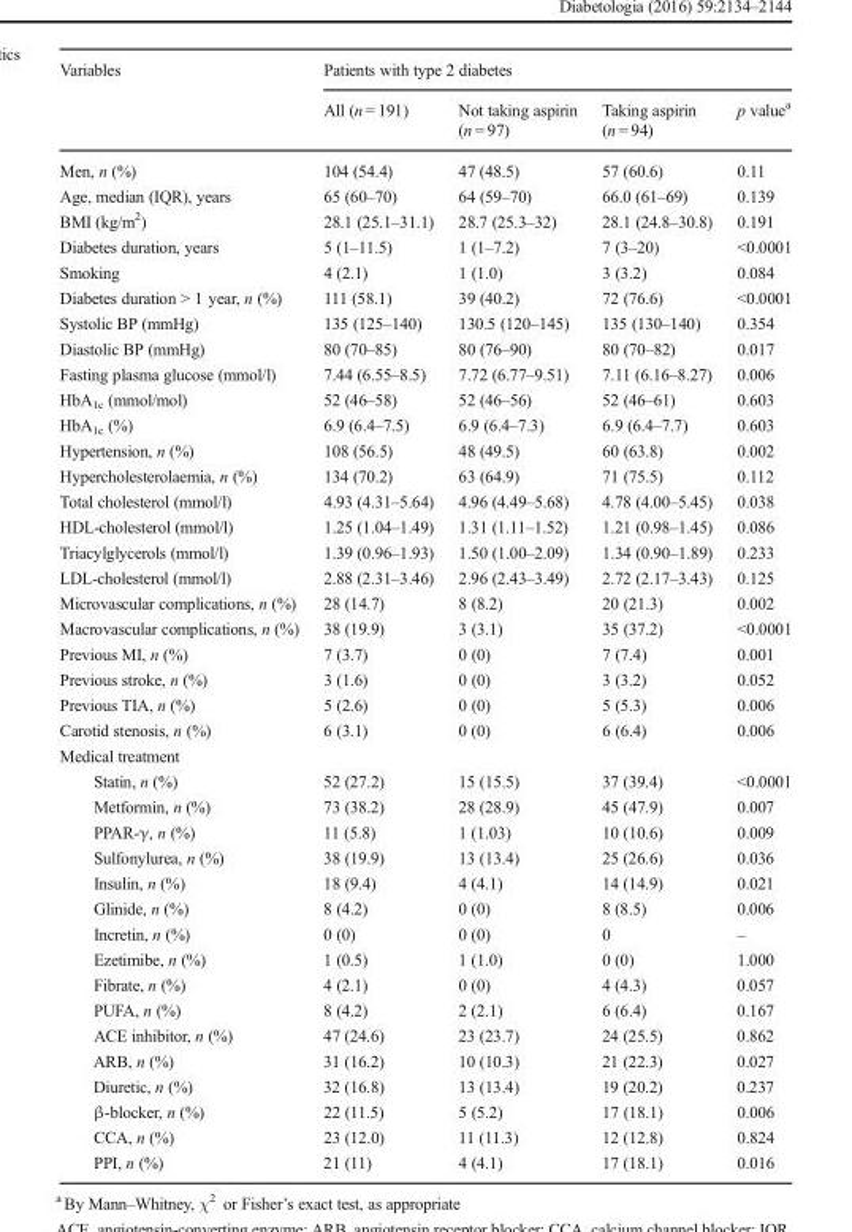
<table><thead><tr><td rowspan="2">Variables</td><td colspan="4">Patients with type 2 diabetes</td></tr><tr><td>All (n = 191)</td><td>Not taking aspirin (n = 97)</td><td>Taking aspirin (n = 94)</td><td>p value<sup>a</sup></td></tr></thead><tbody><tr><td>Men, n (%)</td><td>104 (54.4)</td><td>47 (48.5)</td><td>57 (60.6)</td><td>0.11</td></tr><tr><td>Age, median (IQR), years</td><td>65 (60–70)</td><td>64 (59–70)</td><td>66.0 (61–69)</td><td>0.139</td></tr><tr><td>BMI (kg/m<sup>2</sup>)</td><td>28.1 (25.1–31.1)</td><td>28.7 (25.3–32)</td><td>28.1 (24.8–30.8)</td><td>0.191</td></tr><tr><td>Diabetes duration, years</td><td>5 (1–11.5)</td><td>1 (1–7.2)</td><td>7 (3–20)</td><td>&lt;0.0001</td></tr><tr><td>Smoking</td><td>4 (2.1)</td><td>1 (1.0)</td><td>3 (3.2)</td><td>0.084</td></tr><tr><td>Diabetes duration &gt; 1 year, n (%)</td><td>111 (58.1)</td><td>39 (40.2)</td><td>72 (76.6)</td><td>&lt;0.0001</td></tr><tr><td>Systolic BP (mmHg)</td><td>135 (125–140)</td><td>130.5 (120–145)</td><td>135 (130–140)</td><td>0.354</td></tr><tr><td>Diastolic BP (mmHg)</td><td>80 (70–85)</td><td>80 (76–90)</td><td>80 (70–82)</td><td>0.017</td></tr><tr><td>Fasting plasma glucose (mmol/l)</td><td>7.44 (6.55–8.5)</td><td>7.72 (6.77–9.51)</td><td>7.11 (6.16–8.27)</td><td>0.006</td></tr><tr><td>HbA<sub>1c</sub> (mmol/mol)</td><td>52 (46–58)</td><td>52 (46–56)</td><td>52 (46–61)</td><td>0.603</td></tr><tr><td>HbA<sub>1c</sub> (%)</td><td>6.9 (6.4–7.5)</td><td>6.9 (6.4–7.3)</td><td>6.9 (6.4–7.7)</td><td>0.603</td></tr><tr><td>Hypertension, n (%)</td><td>108 (56.5)</td><td>48 (49.5)</td><td>60 (63.8)</td><td>0.002</td></tr><tr><td>Hypercholesterolaemia, n (%)</td><td>134 (70.2)</td><td>63 (64.9)</td><td>71 (75.5)</td><td>0.112</td></tr><tr><td>Total cholesterol (mmol/l)</td><td>4.93 (4.31–5.64)</td><td>4.96 (4.49–5.68)</td><td>4.78 (4.00–5.45)</td><td>0.038</td></tr><tr><td>HDL-cholesterol (mmol/l)</td><td>1.25 (1.04–1.49)</td><td>1.31 (1.11–1.52)</td><td>1.21 (0.98–1.45)</td><td>0.086</td></tr><tr><td>Triacylglycerols (mmol/l)</td><td>1.39 (0.96–1.93)</td><td>1.50 (1.00–2.09)</td><td>1.34 (0.90–1.89)</td><td>0.233</td></tr><tr><td>LDL-cholesterol (mmol/l)</td><td>2.88 (2.31–3.46)</td><td>2.96 (2.43–3.49)</td><td>2.72 (2.17–3.43)</td><td>0.125</td></tr><tr><td>Microvascular complications, n (%)</td><td>28 (14.7)</td><td>8 (8.2)</td><td>20 (21.3)</td><td>0.002</td></tr><tr><td>Macrovascular complications, n (%)</td><td>38 (19.9)</td><td>3 (3.1)</td><td>35 (37.2)</td><td>&lt;0.0001</td></tr><tr><td>Previous MI, n (%)</td><td>7 (3.7)</td><td>0 (0)</td><td>7 (7.4)</td><td>0.001</td></tr><tr><td>Previous stroke, n (%)</td><td>3 (1.6)</td><td>0 (0)</td><td>3 (3.2)</td><td>0.052</td></tr><tr><td>Previous TIA, n (%)</td><td>5 (2.6)</td><td>0 (0)</td><td>5 (5.3)</td><td>0.006</td></tr><tr><td>Carotid stenosis, n (%)</td><td>6 (3.1)</td><td>0 (0)</td><td>6 (6.4)</td><td>0.006</td></tr><tr><td colspan="5">Medical treatment</td></tr><tr><td>Statin, n (%)</td><td>52 (27.2)</td><td>15 (15.5)</td><td>37 (39.4)</td><td>&lt;0.0001</td></tr><tr><td>Metformin, n (%)</td><td>73 (38.2)</td><td>28 (28.9)</td><td>45 (47.9)</td><td>0.007</td></tr><tr><td>PPAR-γ, n (%)</td><td>11 (5.8)</td><td>1 (1.03)</td><td>10 (10.6)</td><td>0.009</td></tr><tr><td>Sulfonylurea, n (%)</td><td>38 (19.9)</td><td>13 (13.4)</td><td>25 (26.6)</td><td>0.036</td></tr><tr><td>Insulin, n (%)</td><td>18 (9.4)</td><td>4 (4.1)</td><td>14 (14.9)</td><td>0.021</td></tr><tr><td>Glinide, n (%)</td><td>8 (4.2)</td><td>0 (0)</td><td>8 (8.5)</td><td>0.006</td></tr><tr><td>Incretin, n (%)</td><td>0 (0)</td><td>0 (0)</td><td>0</td><td>–</td></tr><tr><td>Ezetimibe, n (%)</td><td>1 (0.5)</td><td>1 (1.0)</td><td>0 (0)</td><td>1.000</td></tr><tr><td>Fibrate, n (%)</td><td>4 (2.1)</td><td>0 (0)</td><td>4 (4.3)</td><td>0.057</td></tr><tr><td>PUFA, n (%)</td><td>8 (4.2)</td><td>2 (2.1)</td><td>6 (6.4)</td><td>0.167</td></tr><tr><td>ACE inhibitor, n (%)</td><td>47 (24.6)</td><td>23 (23.7)</td><td>24 (25.5)</td><td>0.862</td></tr><tr><td>ARB, n (%)</td><td>31 (16.2)</td><td>10 (10.3)</td><td>21 (22.3)</td><td>0.027</td></tr><tr><td>Diuretic, n (%)</td><td>32 (16.8)</td><td>13 (13.4)</td><td>19 (20.2)</td><td>0.237</td></tr><tr><td>β-blocker, n (%)</td><td>22 (11.5)</td><td>5 (5.2)</td><td>17 (18.1)</td><td>0.006</td></tr><tr><td>CCA, n (%)</td><td>23 (12.0)</td><td>11 (11.3)</td><td>12 (12.8)</td><td>0.824</td></tr><tr><td>PPI, n (%)</td><td>21 (11)</td><td>4 (4.1)</td><td>17 (18.1)</td><td>0.016</td></tr></tbody></table>